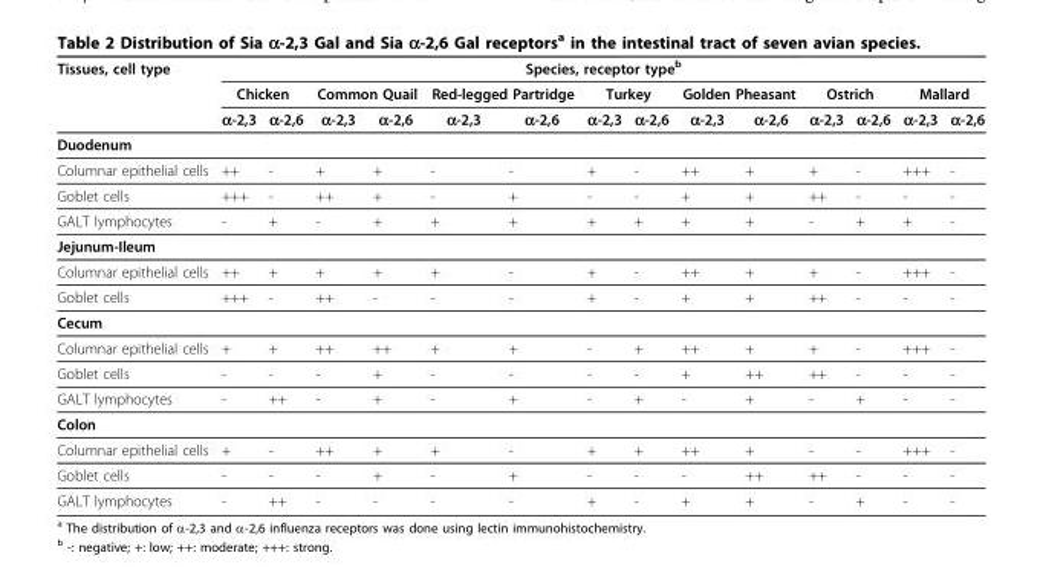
<table><thead><tr><td rowspan="3">Tissues, cell type</td><td colspan="14">Species, receptor type<sup>b</sup></td></tr><tr><td colspan="2">Chicken</td><td colspan="2">Common Quail</td><td colspan="2">Red-legged Partridge</td><td colspan="2">Turkey</td><td colspan="2">Golden Pheasant</td><td colspan="2">Ostrich</td><td colspan="2">Mallard</td></tr><tr><td>α-2,3</td><td>α-2,6</td><td>α-2,3</td><td>α-2,6</td><td>α-2,3</td><td>α-2,6</td><td>α-2,3</td><td>α-2,6</td><td>α-2,3</td><td>α-2,6</td><td>α-2,3</td><td>α-2,6</td><td>α-2,3</td><td>α-2,6</td></tr></thead><tbody><tr><td colspan="15">Duodenum</td></tr><tr><td>Columnar epithelial cells</td><td>++</td><td>-</td><td>+</td><td>+</td><td>-</td><td>-</td><td>+</td><td>-</td><td>++</td><td>+</td><td>+</td><td>-</td><td>+++</td><td>-</td></tr><tr><td>Goblet cells</td><td>+++</td><td>-</td><td>++</td><td>+</td><td>-</td><td>+</td><td>-</td><td>-</td><td>+</td><td>+</td><td>++</td><td>-</td><td>-</td><td>-</td></tr><tr><td>GALT lymphocytes</td><td>-</td><td>+</td><td>-</td><td>+</td><td>+</td><td>+</td><td>+</td><td>+</td><td>+</td><td>+</td><td>-</td><td>+</td><td>+</td><td>-</td></tr><tr><td colspan="15">Jejunum-Ileum</td></tr><tr><td>Columnar epithelial cells</td><td>++</td><td>+</td><td>+</td><td>+</td><td>+</td><td>-</td><td>+</td><td>-</td><td>++</td><td>+</td><td>+</td><td>-</td><td>+++</td><td>-</td></tr><tr><td>Goblet cells</td><td>+++</td><td>-</td><td>++</td><td>-</td><td>-</td><td>-</td><td>+</td><td>-</td><td>+</td><td>+</td><td>++</td><td>-</td><td>-</td><td>-</td></tr><tr><td colspan="15">Cecum</td></tr><tr><td>Columnar epithelial cells</td><td>+</td><td>+</td><td>++</td><td>++</td><td>+</td><td>+</td><td>-</td><td>+</td><td>++</td><td>+</td><td>+</td><td>-</td><td>+++</td><td>-</td></tr><tr><td>Goblet cells</td><td>-</td><td>-</td><td>-</td><td>+</td><td>-</td><td>-</td><td>-</td><td>-</td><td>+</td><td>++</td><td>++</td><td>-</td><td>-</td><td>-</td></tr><tr><td>GALT lymphocytes</td><td>-</td><td>++</td><td>-</td><td>+</td><td>-</td><td>+</td><td>-</td><td>+</td><td>-</td><td>+</td><td>-</td><td>+</td><td>-</td><td>-</td></tr><tr><td colspan="15">Colon</td></tr><tr><td>Columnar epithelial cells</td><td>+</td><td>-</td><td>++</td><td>+</td><td>+</td><td>-</td><td>+</td><td>+</td><td>++</td><td>+</td><td>-</td><td>-</td><td>+++</td><td>-</td></tr><tr><td>Goblet cells</td><td>-</td><td>-</td><td>-</td><td>+</td><td>-</td><td>+</td><td>-</td><td>-</td><td>-</td><td>++</td><td>++</td><td>-</td><td>-</td><td>-</td></tr><tr><td>GALT lymphocytes</td><td>-</td><td>++</td><td>-</td><td>-</td><td>-</td><td>-</td><td>+</td><td>-</td><td>+</td><td>+</td><td>-</td><td>+</td><td>-</td><td>-</td></tr></tbody></table>